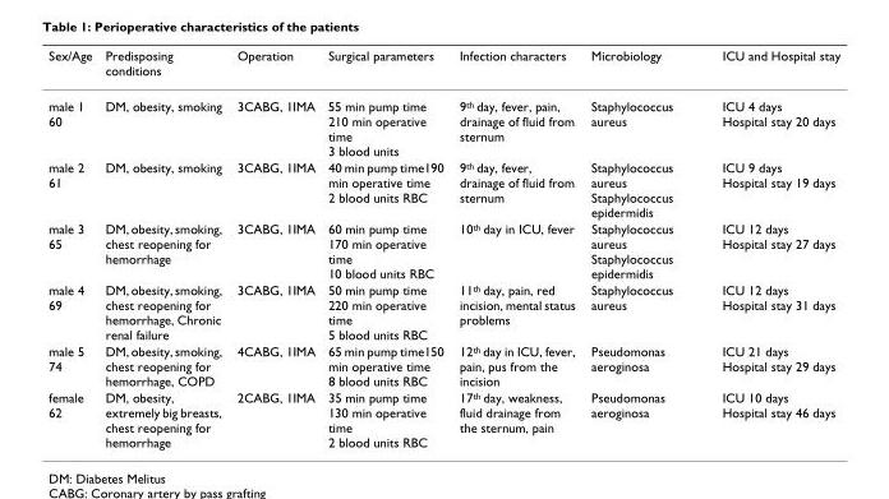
<table><thead><tr><td>Sex/Age</td><td>Predisposing conditions</td><td>Operation</td><td>Surgical parameters</td><td>Infection characters</td><td>Microbiology</td><td>ICU and Hospital stay</td></tr></thead><tbody><tr><td>male 1 60</td><td>DM, obesity, smoking</td><td>3CABG, 1IMA</td><td>55 min pump time 210 min operative time 3 blood units</td><td>9<sup>th</sup> day, fever, pain, drainage of fluid from sternum</td><td>Staphylococcus aureus</td><td>ICU 4 days Hospital stay 20 days</td></tr><tr><td>male 2 61</td><td>DM, obesity, smoking</td><td>3CABG, 1IMA</td><td>40 min pump time190 min operative time 2 blood units RBC</td><td>9<sup>th</sup> day, fever, drainage of fluid from sternum</td><td>Staphylococcus aureus Staphylococcus epidermidis</td><td>ICU 9 days Hospital stay 19 days</td></tr><tr><td>male 3 65</td><td>DM, obesity, smoking, chest reopening for hemorrhage</td><td>3CABG, 1IMA</td><td>60 min pump time 170 min operative time 10 blood units RBC</td><td>10<sup>th</sup> day in ICU, fever</td><td>Staphylococcus aureus Staphylococcus epidermidis</td><td>ICU 12 days Hospital stay 27 days</td></tr><tr><td>male 4 69</td><td>DM, obesity, smoking, chest reopening for hemorrhage, Chronic renal failure</td><td>3CABG, 1IMA</td><td>50 min pump time 220 min operative time 5 blood units RBC</td><td>11<sup>th</sup> day, pain, red incision, mental status problems</td><td>Staphylococcus aureus</td><td>ICU 12 days Hospital stay 31 days</td></tr><tr><td>male 5 74</td><td>DM, obesity, smoking, chest reopening for hemorrhage, COPD</td><td>4CABG, 1IMA</td><td>65 min pump time150 min operative time 8 blood units RBC</td><td>12<sup>th</sup> day in ICU, fever, pain, pus from the incision</td><td>Pseudomonas aeroginosa</td><td>ICU 21 days Hospital stay 29 days</td></tr><tr><td>female 62</td><td>DM, obesity, extremely big breasts, chest reopening for hemorrhage</td><td>2CABG, 1IMA</td><td>35 min pump time 130 min operative time 2 blood units RBC</td><td>17<sup>th</sup> day, weakness, fluid drainage from the sternum, pain</td><td>Pseudomonas aeroginosa</td><td>ICU 10 days Hospital stay 46 days</td></tr></tbody></table>